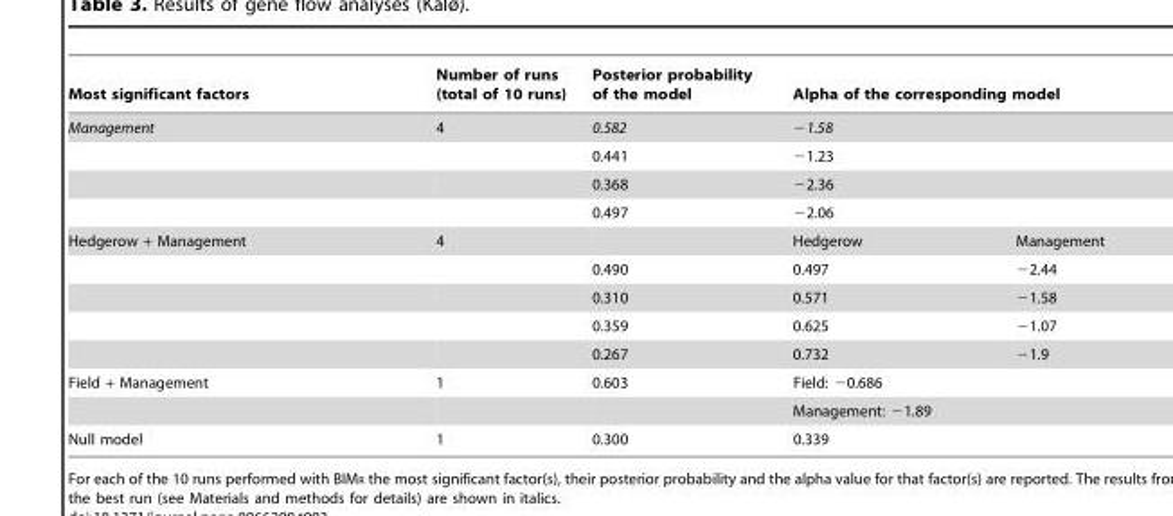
<table><thead><tr><td>Most significant factors</td><td>Number of runs (total of 10 runs)</td><td>Posterior probability of the model</td><td colspan="2">Alpha of the corresponding model</td></tr></thead><tbody><tr><td rowspan="4">Management</td><td>4</td><td>0.582</td><td colspan="2">−1.58</td></tr><tr><td></td><td>0.441</td><td colspan="2">−1.23</td></tr><tr><td></td><td>0.368</td><td colspan="2">−2.36</td></tr><tr><td></td><td>0.497</td><td colspan="2">−2.06</td></tr><tr><td rowspan="5">Hedgerow + Management</td><td>4</td><td></td><td>Hedgerow</td><td>Management</td></tr><tr><td></td><td>0.490</td><td>0.497</td><td>−2.44</td></tr><tr><td></td><td>0.310</td><td>0.571</td><td>−1.58</td></tr><tr><td></td><td>0.359</td><td>0.625</td><td>−1.07</td></tr><tr><td></td><td>0.267</td><td>0.732</td><td>−1.9</td></tr><tr><td rowspan="2">Field + Management</td><td>1</td><td>0.603</td><td colspan="2">Field: −0.686</td></tr><tr><td></td><td></td><td colspan="2">Management: −1.89</td></tr><tr><td>Null model</td><td>1</td><td>0.300</td><td colspan="2">0.339</td></tr></tbody></table>